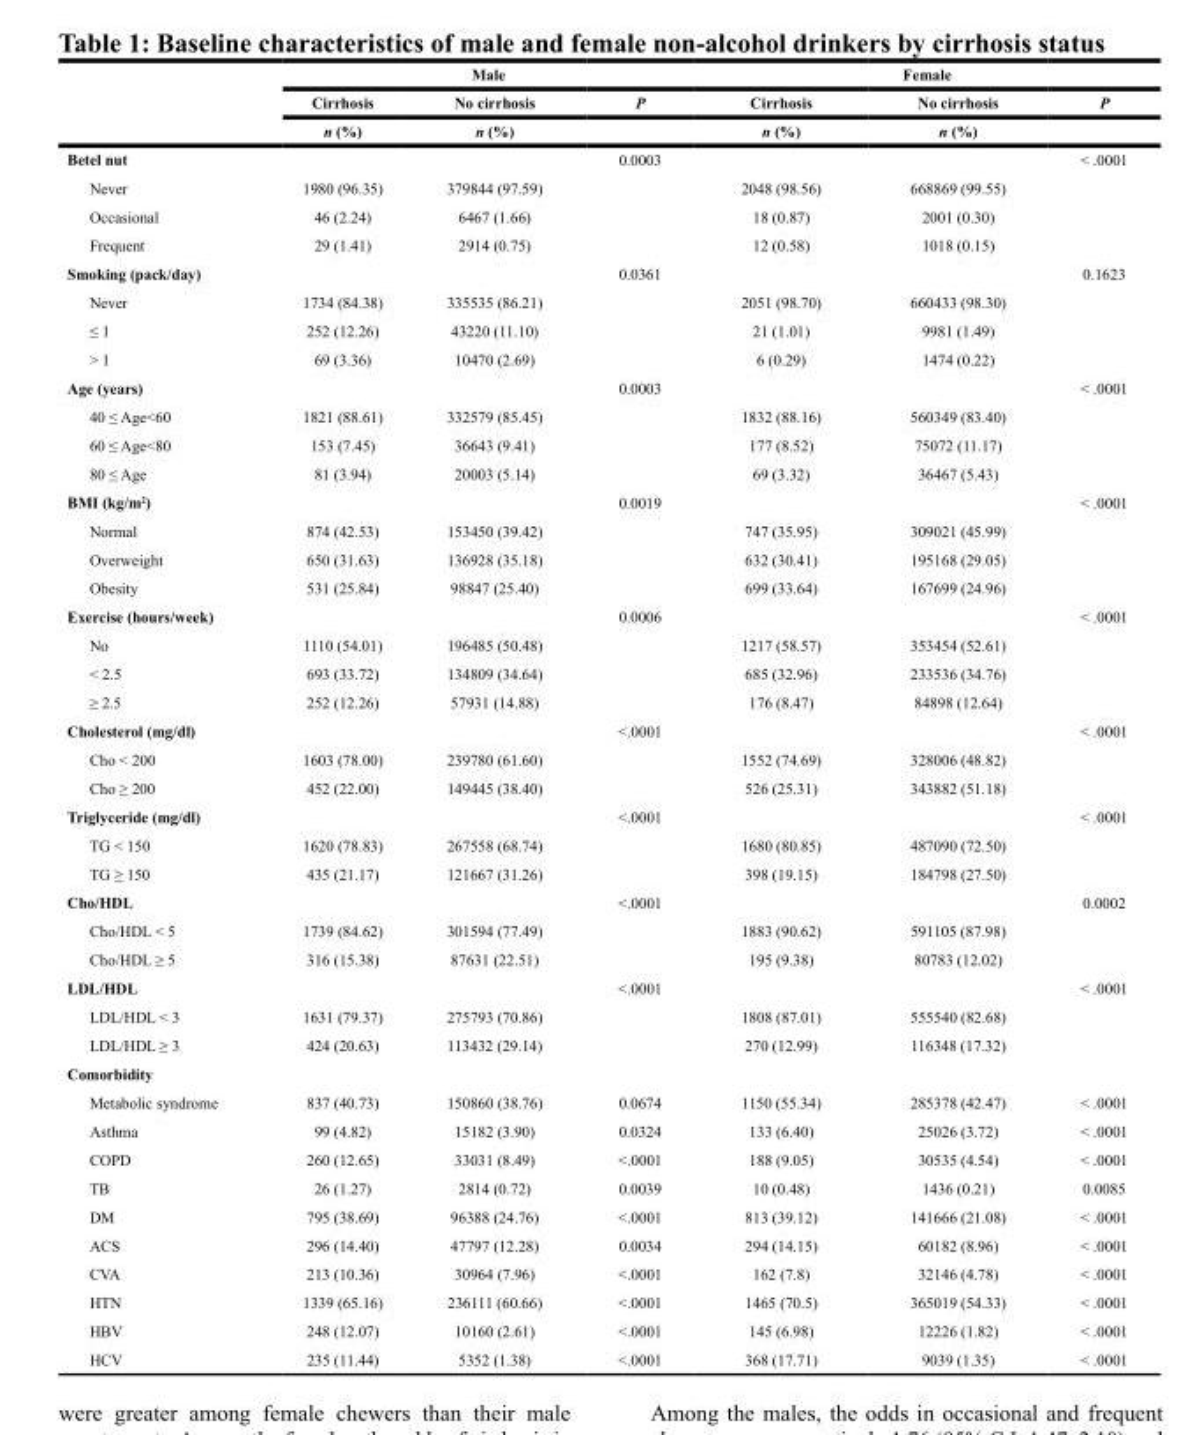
<table><thead><tr><td rowspan="3"></td><td colspan="3">Male</td><td colspan="3">Female</td></tr><tr><td rowspan="2">Cirrhosis n (%)</td><td rowspan="2">No cirrhosis n (%)</td><td rowspan="2">P</td><td rowspan="2">Cirrhosis n (%)</td><td rowspan="2">No cirrhosis n (%)</td><td rowspan="2">P</td></tr><tr></tr></thead><tbody><tr><td>Betel nut</td><td></td><td></td><td>0.0003</td><td></td><td></td><td>&lt; .0001</td></tr><tr><td>Never</td><td>1980 (96.35)</td><td>379844 (97.59)</td><td></td><td>2048 (98.56)</td><td>668869 (99.55)</td><td></td></tr><tr><td>Occasional</td><td>46 (2.24)</td><td>6467 (1.66)</td><td></td><td>18 (0.87)</td><td>2001 (0.30)</td><td></td></tr><tr><td>Frequent</td><td>29 (1.41)</td><td>2914 (0.75)</td><td></td><td>12 (0.58)</td><td>1018 (0.15)</td><td></td></tr><tr><td>Smoking (pack/day)</td><td></td><td></td><td>0.0361</td><td></td><td></td><td>0.1623</td></tr><tr><td>Never</td><td>1734 (84.38)</td><td>335535 (86.21)</td><td></td><td>2051 (98.70)</td><td>660433 (98.30)</td><td></td></tr><tr><td>≤ 1</td><td>252 (12.26)</td><td>43220 (11.10)</td><td></td><td>21 (1.01)</td><td>9981 (1.49)</td><td></td></tr><tr><td>&gt; 1</td><td>69 (3.36)</td><td>10470 (2.69)</td><td></td><td>6 (0.29)</td><td>1474 (0.22)</td><td></td></tr><tr><td>Age (years)</td><td></td><td></td><td>0.0003</td><td></td><td></td><td>&lt; .0001</td></tr><tr><td>40 ≤ Age&lt;60</td><td>1821 (88.61)</td><td>332579 (85.45)</td><td></td><td>1832 (88.16)</td><td>560349 (83.40)</td><td></td></tr><tr><td>60 ≤ Age&lt;80</td><td>153 (7.45)</td><td>36643 (9.41)</td><td></td><td>177 (8.52)</td><td>75072 (11.17)</td><td></td></tr><tr><td>80 ≤ Age</td><td>81 (3.94)</td><td>20003 (5.14)</td><td></td><td>69 (3.32)</td><td>36467 (5.43)</td><td></td></tr><tr><td>BMI (kg/m<sup>2</sup>)</td><td></td><td></td><td>0.0019</td><td></td><td></td><td>&lt; .0001</td></tr><tr><td>Normal</td><td>874 (42.53)</td><td>153450 (39.42)</td><td></td><td>747 (35.95)</td><td>309021 (45.99)</td><td></td></tr><tr><td>Overweight</td><td>650 (31.63)</td><td>136928 (35.18)</td><td></td><td>632 (30.41)</td><td>195168 (29.05)</td><td></td></tr><tr><td>Obesity</td><td>531 (25.84)</td><td>98847 (25.40)</td><td></td><td>699 (33.64)</td><td>167699 (24.96)</td><td></td></tr><tr><td>Exercise (hours/week)</td><td></td><td></td><td>0.0006</td><td></td><td></td><td>&lt; .0001</td></tr><tr><td>No</td><td>1110 (54.01)</td><td>196485 (50.48)</td><td></td><td>1217 (58.57)</td><td>353454 (52.61)</td><td></td></tr><tr><td>&lt; 2.5</td><td>693 (33.72)</td><td>134809 (34.64)</td><td></td><td>685 (32.96)</td><td>233536 (34.76)</td><td></td></tr><tr><td>≥ 2.5</td><td>252 (12.26)</td><td>57931 (14.88)</td><td></td><td>176 (8.47)</td><td>84898 (12.64)</td><td></td></tr><tr><td>Cholesterol (mg/dl)</td><td></td><td></td><td>&lt;.0001</td><td></td><td></td><td>&lt; .0001</td></tr><tr><td>Cho &lt; 200</td><td>1603 (78.00)</td><td>239780 (61.60)</td><td></td><td>1552 (74.69)</td><td>328006 (48.82)</td><td></td></tr><tr><td>Cho ≥ 200</td><td>452 (22.00)</td><td>149445 (38.40)</td><td></td><td>526 (25.31)</td><td>343882 (51.18)</td><td></td></tr><tr><td>Triglyceride (mg/dl)</td><td></td><td></td><td>&lt;.0001</td><td></td><td></td><td>&lt; .0001</td></tr><tr><td>TG &lt; 150</td><td>1620 (78.83)</td><td>267558 (68.74)</td><td></td><td>1680 (80.85)</td><td>487090 (72.50)</td><td></td></tr><tr><td>TG ≥ 150</td><td>435 (21.17)</td><td>121667 (31.26)</td><td></td><td>398 (19.15)</td><td>184798 (27.50)</td><td></td></tr><tr><td>Cho/HDL</td><td></td><td></td><td>&lt;.0001</td><td></td><td></td><td>0.0002</td></tr><tr><td>Cho/HDL &lt; 5</td><td>1739 (84.62)</td><td>301594 (77.49)</td><td></td><td>1883 (90.62)</td><td>591105 (87.98)</td><td></td></tr><tr><td>Cho/HDL ≥ 5</td><td>316 (15.38)</td><td>87631 (22.51)</td><td></td><td>195 (9.38)</td><td>80783 (12.02)</td><td></td></tr><tr><td>LDL/HDL</td><td></td><td></td><td>&lt;.0001</td><td></td><td></td><td>&lt; .0001</td></tr><tr><td>LDL/HDL &lt; 3</td><td>1631 (79.37)</td><td>275793 (70.86)</td><td></td><td>1808 (87.01)</td><td>555540 (82.68)</td><td></td></tr><tr><td>LDL/HDL ≥ 3</td><td>424 (20.63)</td><td>113432 (29.14)</td><td></td><td>270 (12.99)</td><td>116348 (17.32)</td><td></td></tr><tr><td colspan="7">Comorbidity</td></tr><tr><td>Metabolic syndrome</td><td>837 (40.73)</td><td>150860 (38.76)</td><td>0.0674</td><td>1150 (55.34)</td><td>285378 (42.47)</td><td>&lt; .0001</td></tr><tr><td>Asthma</td><td>99 (4.82)</td><td>15182 (3.90)</td><td>0.0324</td><td>133 (6.40)</td><td>25026 (3.72)</td><td>&lt; .0001</td></tr><tr><td>COPD</td><td>260 (12.65)</td><td>33031 (8.49)</td><td>&lt;.0001</td><td>188 (9.05)</td><td>30535 (4.54)</td><td>&lt; .0001</td></tr><tr><td>TB</td><td>26 (1.27)</td><td>2814 (0.72)</td><td>0.0039</td><td>10 (0.48)</td><td>1436 (0.21)</td><td>0.0085</td></tr><tr><td>DM</td><td>795 (38.69)</td><td>96388 (24.76)</td><td>&lt;.0001</td><td>813 (39.12)</td><td>141666 (21.08)</td><td>&lt; .0001</td></tr><tr><td>ACS</td><td>296 (14.40)</td><td>47797 (12.28)</td><td>0.0034</td><td>294 (14.15)</td><td>60182 (8.96)</td><td>&lt; .0001</td></tr><tr><td>CVA</td><td>213 (10.36)</td><td>30964 (7.96)</td><td>&lt;.0001</td><td>162 (7.8)</td><td>32146 (4.78)</td><td>&lt; .0001</td></tr><tr><td>HTN</td><td>1339 (65.16)</td><td>236111 (60.66)</td><td>&lt;.0001</td><td>1465 (70.5)</td><td>365019 (54.33)</td><td>&lt; .0001</td></tr><tr><td>HBV</td><td>248 (12.07)</td><td>10160 (2.61)</td><td>&lt;.0001</td><td>145 (6.98)</td><td>12226 (1.82)</td><td>&lt; .0001</td></tr><tr><td>HCV</td><td>235 (11.44)</td><td>5352 (1.38)</td><td>&lt;.0001</td><td>368 (17.71)</td><td>9039 (1.35)</td><td>&lt; .0001</td></tr></tbody></table>